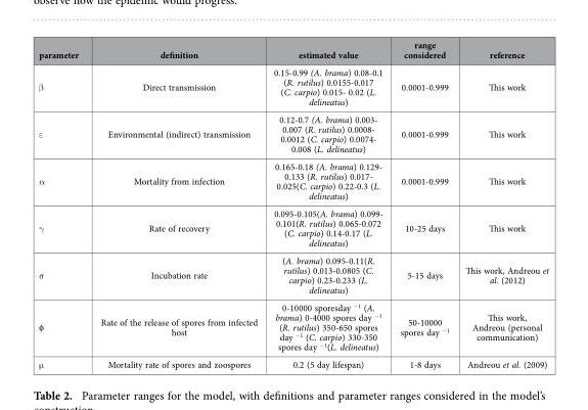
<table><thead><tr><td>parameter</td><td>definition</td><td>estimated value</td><td>range considered</td><td>reference</td></tr></thead><tbody><tr><td>β</td><td>Direct transmission</td><td>0.15-0.99 (A. brama) 0.08-0.1 (R. rutilus) 0.0155-0.017 (C. carpio) 0.015- 0.02 (L. delineatus)</td><td>0.0001-0.999</td><td>This work</td></tr><tr><td>ε</td><td>Environmental (indirect) transmission</td><td>0.12-0.7 (A. brama) 0.003- 0.007 (R. rutilus) 0.0008- 0.0012 (C. carpio) 0.0074- 0.008 (L. delineatus)</td><td>0.0001-0.999</td><td>This work</td></tr><tr><td>α</td><td>Mortality from infection</td><td>0.165-0.18 (A. brama) 0.129- 0.133 (R. rutilus) 0.017- 0.025(C. carpio) 0.22-0.3 (L. delineatus)</td><td>0.0001-0.999</td><td>This work</td></tr><tr><td>γ</td><td>Rate of recovery</td><td>0.095-0.105(A. brama) 0.099- 0.101(R. rutilus) 0.065-0.072 (C. carpio) 0.14-0.17 (L. delineatus)</td><td>10-25 days</td><td>This work</td></tr><tr><td>σ</td><td>Incubation rate</td><td>(A. brama) 0.095-0.11(R. rutilus) 0.013-0.0805 (C. carpio) 0.23-0.233 (L. delineatus)</td><td>5-15 days</td><td>This work, Andreou et al. (2012)</td></tr><tr><td>f</td><td>Rate of the release of spores from infected host</td><td>0-10000 sporesday <sup>−1</sup> (A. brama) 0-4000 spores day <sup>−1</sup> (R. rutilus) 350-650 spores day <sup>−1</sup> (C. carpio) 330-350 spores day <sup>−1</sup>(L. delineatus)</td><td>50-10000 spores day <sup>−1</sup></td><td>This work, Andreou (personal communication)</td></tr><tr><td>μ</td><td>Mortality rate of spores and zoospores</td><td>0.2 (5 day lifespan)</td><td>1-8 days</td><td>Andreou et al. (2009)</td></tr></tbody></table>